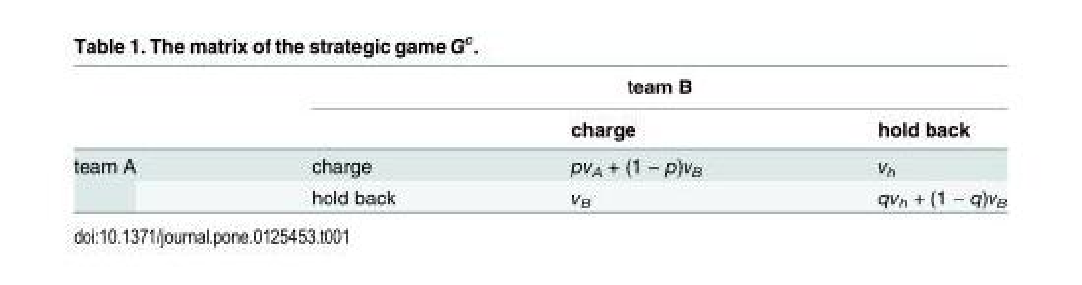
<table><thead><tr><td rowspan="2"></td><td colspan="3">team B</td></tr><tr><td></td><td>charge</td><td>hold back</td></tr></thead><tbody><tr><td rowspan="2">team A</td><td>charge</td><td>pv<sub>A</sub> + (1 − p)v<sub>B</sub></td><td>v<sub>h</sub></td></tr><tr><td>hold back</td><td>v<sub>B</sub></td><td>qv<sub>h</sub> + (1 − q)v<sub>B</sub></td></tr></tbody></table>